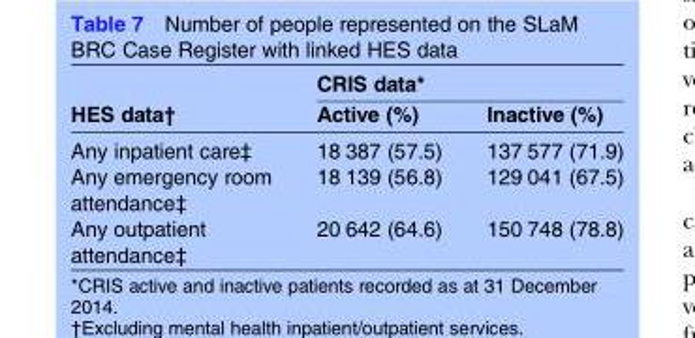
<table><thead><tr><td rowspan="2">HES data†</td><td colspan="2">CRIS data*</td></tr><tr><td>Active (%)</td><td>Inactive (%)</td></tr></thead><tbody><tr><td>Any inpatient care‡</td><td>18 387 (57.5)</td><td>137 577 (71.9)</td></tr><tr><td>Any emergency room attendance‡</td><td>18 139 (56.8)</td><td>129 041 (67.5)</td></tr><tr><td>Any outpatient attendance‡</td><td>20 642 (64.6)</td><td>150 748 (78.8)</td></tr></tbody></table>